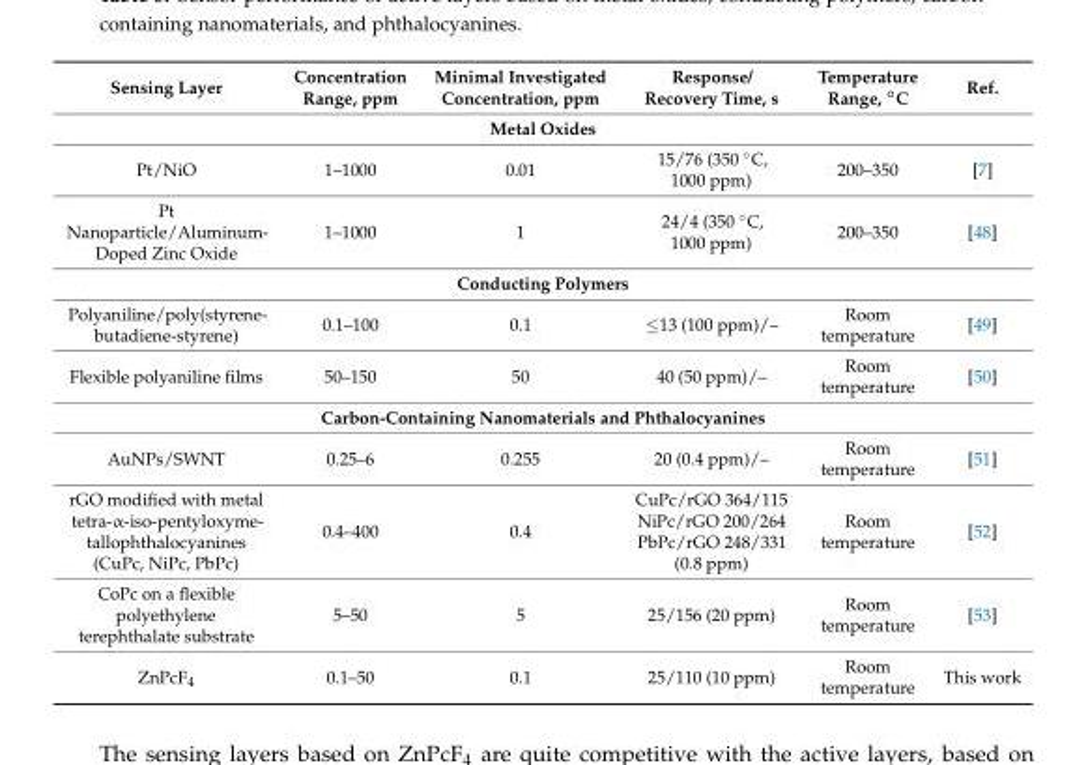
<table><thead><tr><td>Sensing Layer</td><td>Concentration Range, ppm</td><td>Minimal Investigated Concentration, ppm</td><td>Response/ Recovery Time, s</td><td>Temperature Range, ◦C</td><td>Ref.</td></tr></thead><tbody><tr><td colspan="6">Metal Oxides</td></tr><tr><td>Pt/NiO</td><td>1–1000</td><td>0.01</td><td>15/76 (350 ◦C, 1000 ppm)</td><td>200–350</td><td>[7]</td></tr><tr><td>Pt Nanoparticle/Aluminum- Doped Zinc Oxide</td><td>1–1000</td><td>1</td><td>24/4 (350 ◦C, 1000 ppm)</td><td>200–350</td><td>[48]</td></tr><tr><td colspan="6">Conducting Polymers</td></tr><tr><td>Polyaniline/poly(styrene- butadiene-styrene)</td><td>0.1–100</td><td>0.1</td><td>≤13 (100 ppm)/–</td><td>Room temperature</td><td>[49]</td></tr><tr><td>Flexible polyaniline films</td><td>50–150</td><td>50</td><td>40 (50 ppm)/–</td><td>Room temperature</td><td>[50]</td></tr><tr><td colspan="6">Carbon-Containing Nanomaterials and Phthalocyanines</td></tr><tr><td>AuNPs/SWNT</td><td>0.25–6</td><td>0.255</td><td>20 (0.4 ppm)/–</td><td>Room temperature</td><td>[51]</td></tr><tr><td>rGO modified with metal tetra-α-iso-pentyloxyme- tallophthalocyanines (CuPc, NiPc, PbPc)</td><td>0.4–400</td><td>0.4</td><td>CuPc/rGO 364/115 NiPc/rGO 200/264 PbPc/rGO 248/331 (0.8 ppm)</td><td>Room temperature</td><td>[52]</td></tr><tr><td>CoPc on a flexible polyethylene terephthalate substrate</td><td>5–50</td><td>5</td><td>25/156 (20 ppm)</td><td>Room temperature</td><td>[53]</td></tr><tr><td>ZnPcF<sub>4</sub></td><td>0.1–50</td><td>0.1</td><td>25/110 (10 ppm)</td><td>Room temperature</td><td>This work</td></tr></tbody></table>